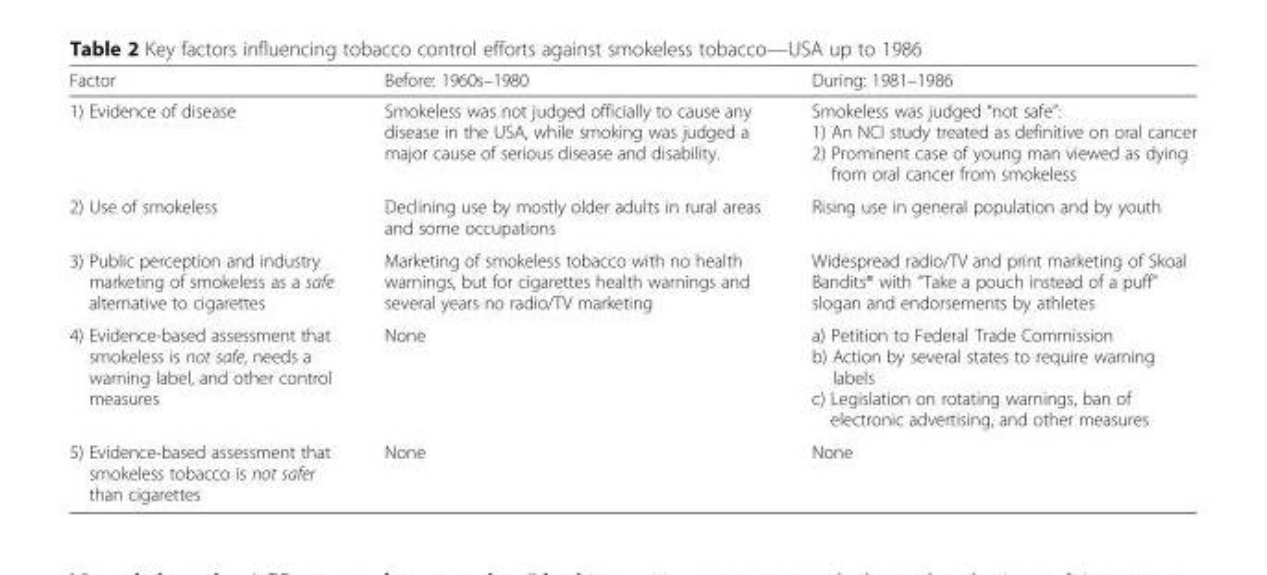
<table><thead><tr><td>Factor</td><td>Before: 1960s–1980</td><td>During: 1981–1986</td></tr></thead><tbody><tr><td>1) Evidence of disease</td><td>Smokeless was not judged officially to cause any disease in the USA, while smoking was judged a major cause of serious disease and disability.</td><td>Smokeless was judged “not safe”: 1) An NCI study treated as definitive on oral cancer 2) Prominent case of young man viewed as dying from oral cancer from smokeless</td></tr><tr><td>2) Use of smokeless</td><td>Declining use by mostly older adults in rural areas and some occupations</td><td>Rising use in general population and by youth</td></tr><tr><td>3) Public perception and industry marketing of smokeless as a safe alternative to cigarettes</td><td>Marketing of smokeless tobacco with no health warnings, but for cigarettes health warnings and several years no radio/TV marketing</td><td>Widespread radio/TV and print marketing of Skoal Bandits® with “Take a pouch instead of a puff” slogan and endorsements by athletes</td></tr><tr><td>4) Evidence-based assessment that smokeless is not safe, needs a warning label, and other control measures</td><td>None</td><td>a) Petition to Federal Trade Commission b) Action by several states to require warning labels c) Legislation on rotating warnings, ban of electronic advertising, and other measures</td></tr><tr><td>5) Evidence-based assessment that smokeless tobacco is not safer than cigarettes</td><td>None</td><td>None</td></tr></tbody></table>